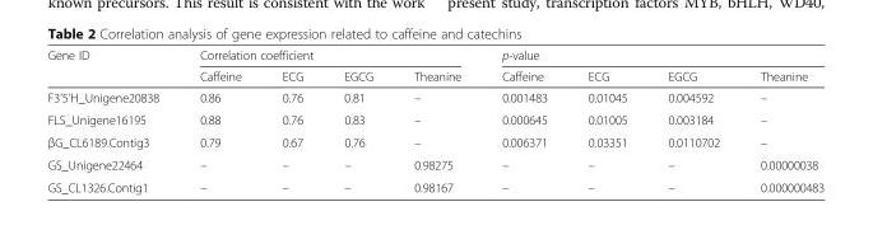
<table><thead><tr><td rowspan="2">Gene ID</td><td colspan="4">Correlation coefficient</td><td colspan="4">p-value</td></tr><tr><td>Caffeine</td><td>ECG</td><td>EGCG</td><td>Theanine</td><td>Caffeine</td><td>ECG</td><td>EGCG</td><td>Theanine</td></tr></thead><tbody><tr><td>F3’5’H_Unigene20838</td><td>0.86</td><td>0.76</td><td>0.81</td><td>–</td><td>0.001483</td><td>0.01045</td><td>0.004592</td><td>–</td></tr><tr><td>FLS_Unigene16195</td><td>0.88</td><td>0.76</td><td>0.83</td><td>–</td><td>0.000645</td><td>0.01005</td><td>0.003184</td><td>–</td></tr><tr><td>βG_CL6189.Contig3</td><td>0.79</td><td>0.67</td><td>0.76</td><td>–</td><td>0.006371</td><td>0.03351</td><td>0.0110702</td><td>–</td></tr><tr><td>GS_Unigene22464</td><td>–</td><td>–</td><td>–</td><td>0.98275</td><td>–</td><td>–</td><td>–</td><td>0.00000038</td></tr><tr><td>GS_CL1326.Contig1</td><td>–</td><td>–</td><td>–</td><td>0.98167</td><td>–</td><td>–</td><td>–</td><td>0.000000483</td></tr></tbody></table>